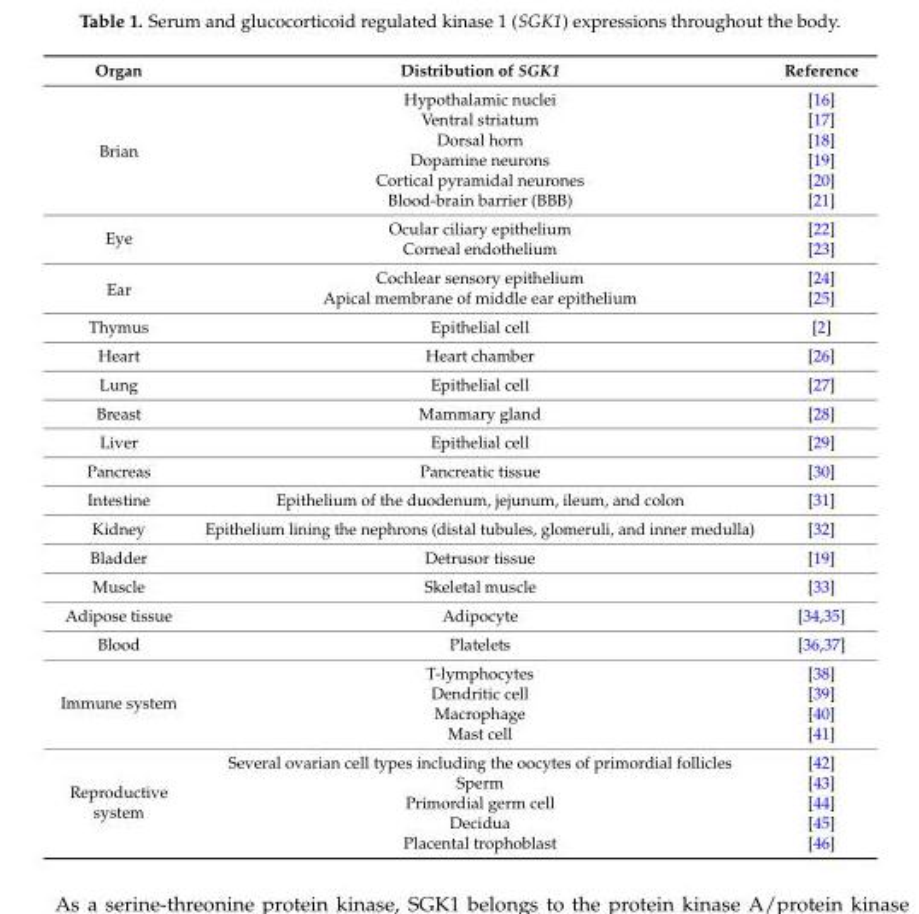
<table><thead><tr><td>Organ</td><td>Distribution of SGK1</td><td>Reference</td></tr></thead><tbody><tr><td rowspan="6">Brian</td><td>Hypothalamic nuclei</td><td>[16]</td></tr><tr><td>Ventral striatum</td><td>[17]</td></tr><tr><td>Dorsal horn</td><td>[18]</td></tr><tr><td>Dopamine neurons</td><td>[19]</td></tr><tr><td>Cortical pyramidal neurones</td><td>[20]</td></tr><tr><td>Blood-brain barrier (BBB)</td><td>[21]</td></tr><tr><td rowspan="2">Eye</td><td>Ocular ciliary epithelium</td><td>[22]</td></tr><tr><td>Corneal endothelium</td><td>[23]</td></tr><tr><td rowspan="2">Ear</td><td>Cochlear sensory epithelium</td><td>[24]</td></tr><tr><td>Apical membrane of middle ear epithelium</td><td>[25]</td></tr><tr><td>Thymus</td><td>Epithelial cell</td><td>[2]</td></tr><tr><td>Heart</td><td>Heart chamber</td><td>[26]</td></tr><tr><td>Lung</td><td>Epithelial cell</td><td>[27]</td></tr><tr><td>Breast</td><td>Mammary gland</td><td>[28]</td></tr><tr><td>Liver</td><td>Epithelial cell</td><td>[29]</td></tr><tr><td>Pancreas</td><td>Pancreatic tissue</td><td>[30]</td></tr><tr><td>Intestine</td><td>Epithelium of the duodenum, jejunum, ileum, and colon</td><td>[31]</td></tr><tr><td>Kidney</td><td>Epithelium lining the nephrons (distal tubules, glomeruli, and inner medulla)</td><td>[32]</td></tr><tr><td>Bladder</td><td>Detrusor tissue</td><td>[19]</td></tr><tr><td>Muscle</td><td>Skeletal muscle</td><td>[33]</td></tr><tr><td>Adipose tissue</td><td>Adipocyte</td><td>[34,35]</td></tr><tr><td>Blood</td><td>Platelets</td><td>[36,37]</td></tr><tr><td rowspan="4">Immune system</td><td>T-lymphocytes</td><td>[38]</td></tr><tr><td>Dendritic cell</td><td>[39]</td></tr><tr><td>Macrophage</td><td>[40]</td></tr><tr><td>Mast cell</td><td>[41]</td></tr><tr><td rowspan="5">Reproductive system</td><td>Several ovarian cell types including the oocytes of primordial follicles</td><td>[42]</td></tr><tr><td>Sperm</td><td>[43]</td></tr><tr><td>Primordial germ cell</td><td>[44]</td></tr><tr><td>Decidua</td><td>[45]</td></tr><tr><td>Placental trophoblast</td><td>[46]</td></tr></tbody></table>